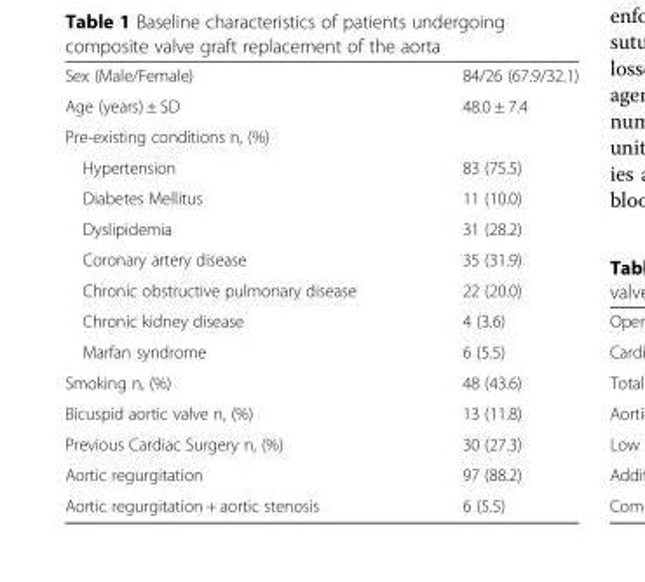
<table><tbody><tr><td>Sex (Male/Female)</td><td>84/26 (67.9/32.1)</td></tr><tr><td>Age (years) ± SD</td><td>48.0 ± 7.4</td></tr><tr><td colspan="2">Pre-existing conditions n, (%)</td></tr><tr><td>Hypertension</td><td>83 (75.5)</td></tr><tr><td>Diabetes Mellitus</td><td>11 (10.0)</td></tr><tr><td>Dyslipidemia</td><td>31 (28.2)</td></tr><tr><td>Coronary artery disease</td><td>35 (31.9)</td></tr><tr><td>Chronic obstructive pulmonary disease</td><td>22 (20.0)</td></tr><tr><td>Chronic kidney disease</td><td>4 (3.6)</td></tr><tr><td>Marfan syndrome</td><td>6 (5.5)</td></tr><tr><td>Smoking n, (%)</td><td>48 (43.6)</td></tr><tr><td>Bicuspid aortic valve n, (%)</td><td>13 (11.8)</td></tr><tr><td>Previous Cardiac Surgery n, (%)</td><td>30 (27.3)</td></tr><tr><td>Aortic regurgitation</td><td>97 (88.2)</td></tr><tr><td>Aortic regurgitation + aortic stenosis</td><td>6 (5.5)</td></tr></tbody></table>